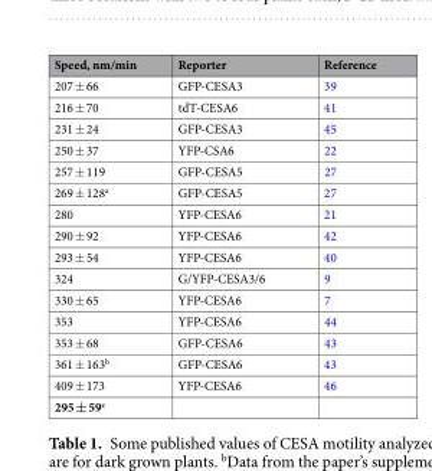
<table><thead><tr><td>Speed, nm/min</td><td>Reporter</td><td>Reference</td></tr></thead><tbody><tr><td>207 ± 66</td><td>GFP-CESA3</td><td>39</td></tr><tr><td>216 ± 70</td><td>tdT-CESA6</td><td>41</td></tr><tr><td>231 ± 24</td><td>GFP-CESA3</td><td>45</td></tr><tr><td>250 ± 37</td><td>YFP-CSA6</td><td>22</td></tr><tr><td>257 ± 119</td><td>GFP-CESA5</td><td>27</td></tr><tr><td>269 ± 128<sup>a</sup></td><td>GFP-CESA5</td><td>27</td></tr><tr><td>280</td><td>YFP-CESA6</td><td>21</td></tr><tr><td>290 ± 92</td><td>YFP-CESA6</td><td>42</td></tr><tr><td>293 ± 54</td><td>YFP-CESA6</td><td>40</td></tr><tr><td>324</td><td>G/YFP-CESA3/6</td><td>9</td></tr><tr><td>330 ± 65</td><td>YFP-CESA6</td><td>7</td></tr><tr><td>353</td><td>YFP-CESA6</td><td>44</td></tr><tr><td>353 ± 68</td><td>GFP-CESA6</td><td>43</td></tr><tr><td>361 ± 163<sup>b</sup></td><td>GFP-CESA6</td><td>43</td></tr><tr><td>409 ± 173</td><td>YFP-CESA6</td><td>46</td></tr><tr><td>295 ± 59<sup>c</sup></td><td></td><td></td></tr></tbody></table>